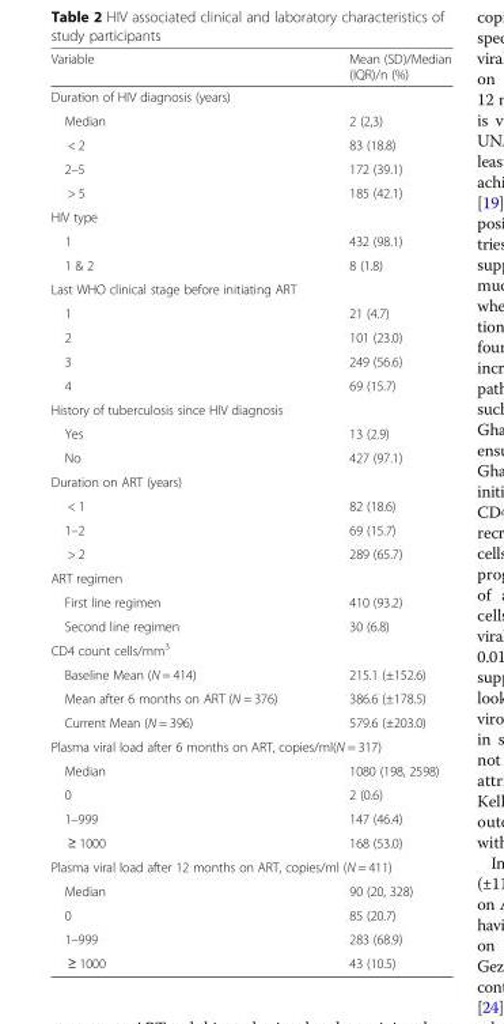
<table><thead><tr><td>Variable</td><td>Mean (SD)/Median (IQR)/n (%)</td></tr></thead><tbody><tr><td colspan="2">Duration of HIV diagnosis (years)</td></tr><tr><td>Median</td><td>2 (2,3)</td></tr><tr><td>&lt; 2</td><td>83 (18.8)</td></tr><tr><td>2–5</td><td>172 (39.1)</td></tr><tr><td>&gt; 5</td><td>185 (42.1)</td></tr><tr><td colspan="2">HIV type</td></tr><tr><td>1</td><td>432 (98.1)</td></tr><tr><td>1 &amp; 2</td><td>8 (1.8)</td></tr><tr><td colspan="2">Last WHO clinical stage before initiating ART</td></tr><tr><td>1</td><td>21 (4.7)</td></tr><tr><td>2</td><td>101 (23.0)</td></tr><tr><td>3</td><td>249 (56.6)</td></tr><tr><td>4</td><td>69 (15.7)</td></tr><tr><td colspan="2">History of tuberculosis since HIV diagnosis</td></tr><tr><td>Yes</td><td>13 (2.9)</td></tr><tr><td>No</td><td>427 (97.1)</td></tr><tr><td colspan="2">Duration on ART (years)</td></tr><tr><td>&lt; 1</td><td>82 (18.6)</td></tr><tr><td>1–2</td><td>69 (15.7)</td></tr><tr><td>&gt; 2</td><td>289 (65.7)</td></tr><tr><td colspan="2">ART regimen</td></tr><tr><td>First line regimen</td><td>410 (93.2)</td></tr><tr><td>Second line regimen</td><td>30 (6.8)</td></tr><tr><td colspan="2">CD4 count cells/mm<sup>3</sup></td></tr><tr><td>Baseline Mean (N = 414)</td><td>215.1 (±152.6)</td></tr><tr><td>Mean after 6 months on ART (N = 376)</td><td>386.6 (±178.5)</td></tr><tr><td>Current Mean (N = 396)</td><td>579.6 (±203.0)</td></tr><tr><td colspan="2">Plasma viral load after 6 months on ART, copies/ml(N = 317)</td></tr><tr><td>Median</td><td>1080 (198, 2598)</td></tr><tr><td>0</td><td>2 (0.6)</td></tr><tr><td>1–999</td><td>147 (46.4)</td></tr><tr><td>≥ 1000</td><td>168 (53.0)</td></tr><tr><td colspan="2">Plasma viral load after 12 months on ART, copies/ml (N = 411)</td></tr><tr><td>Median</td><td>90 (20, 328)</td></tr><tr><td>0</td><td>85 (20.7)</td></tr><tr><td>1–999</td><td>283 (68.9)</td></tr><tr><td>≥ 1000</td><td>43 (10.5)</td></tr></tbody></table>